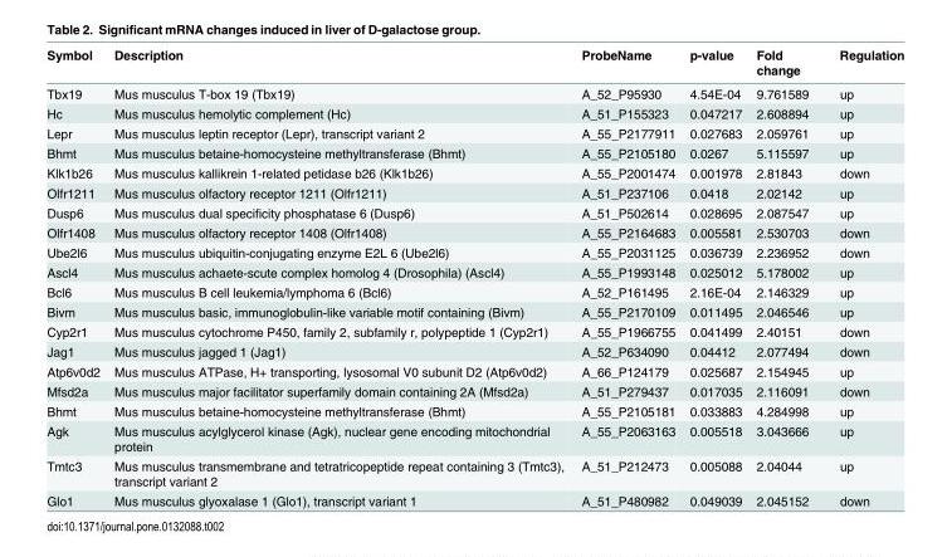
<table><thead><tr><td>Symbol</td><td>Description</td><td>ProbeName</td><td>p-value</td><td>Fold change</td><td>Regulation</td></tr></thead><tbody><tr><td>Tbx19</td><td>Mus musculus T-box 19 (Tbx19)</td><td>A_52_P95930</td><td>4.54E-04</td><td>9.761589</td><td>up</td></tr><tr><td>Hc</td><td>Mus musculus hemolytic complement (Hc)</td><td>A_51_P155323</td><td>0.047217</td><td>2.608894</td><td>up</td></tr><tr><td>Lepr</td><td>Mus musculus leptin receptor (Lepr), transcript variant 2</td><td>A_55_P2177911</td><td>0.027683</td><td>2.059761</td><td>up</td></tr><tr><td>Bhmt</td><td>Mus musculus betaine-homocysteine methyltransferase (Bhmt)</td><td>A_55_P2105180</td><td>0.0267</td><td>5.115597</td><td>up</td></tr><tr><td>Klk1b26</td><td>Mus musculus kallikrein 1-related petidase b26 (Klk1b26)</td><td>A_55_P2001474</td><td>0.001978</td><td>2.81843</td><td>down</td></tr><tr><td>Olfr1211</td><td>Mus musculus olfactory receptor 1211 (Olfr1211)</td><td>A_51_P237106</td><td>0.0418</td><td>2.02142</td><td>up</td></tr><tr><td>Dusp6</td><td>Mus musculus dual specificity phosphatase 6 (Dusp6)</td><td>A_51_P502614</td><td>0.028695</td><td>2.087547</td><td>up</td></tr><tr><td>Olfr1408</td><td>Mus musculus olfactory receptor 1408 (Olfr1408)</td><td>A_55_P2164683</td><td>0.005581</td><td>2.530703</td><td>down</td></tr><tr><td>Ube2l6</td><td>Mus musculus ubiquitin-conjugating enzyme E2L 6 (Ube2l6)</td><td>A_55_P2031125</td><td>0.036739</td><td>2.236952</td><td>down</td></tr><tr><td>Ascl4</td><td>Mus musculus achaete-scute complex homolog 4 (Drosophila) (Ascl4)</td><td>A_55_P1993148</td><td>0.025012</td><td>5.178002</td><td>up</td></tr><tr><td>Bcl6</td><td>Mus musculus B cell leukemia/lymphoma 6 (Bcl6)</td><td>A_52_P161495</td><td>2.16E-04</td><td>2.146329</td><td>up</td></tr><tr><td>Bivm</td><td>Mus musculus basic, immunoglobulin-like variable motif containing (Bivm)</td><td>A_55_P2170109</td><td>0.011495</td><td>2.046546</td><td>up</td></tr><tr><td>Cyp2r1</td><td>Mus musculus cytochrome P450, family 2, subfamily r, polypeptide 1 (Cyp2r1)</td><td>A_55_P1966755</td><td>0.041499</td><td>2.40151</td><td>down</td></tr><tr><td>Jag1</td><td>Mus musculus jagged 1 (Jag1)</td><td>A_52_P634090</td><td>0.04412</td><td>2.077494</td><td>down</td></tr><tr><td>Atp6v0d2</td><td>Mus musculus ATPase, H+ transporting, lysosomal V0 subunit D2 (Atp6v0d2)</td><td>A_66_P124179</td><td>0.025687</td><td>2.154945</td><td>up</td></tr><tr><td>Mfsd2a</td><td>Mus musculus major facilitator superfamily domain containing 2A (Mfsd2a)</td><td>A_51_P279437</td><td>0.017035</td><td>2.116091</td><td>down</td></tr><tr><td>Bhmt</td><td>Mus musculus betaine-homocysteine methyltransferase (Bhmt)</td><td>A_55_P2105181</td><td>0.033883</td><td>4.284998</td><td>up</td></tr><tr><td>Agk</td><td>Mus musculus acylglycerol kinase (Agk), nuclear gene encoding mitochondrial protein</td><td>A_55_P2063163</td><td>0.005518</td><td>3.043666</td><td>up</td></tr><tr><td>Tmtc3</td><td>Mus musculus transmembrane and tetratricopeptide repeat containing 3 (Tmtc3), transcript variant 2</td><td>A_51_P212473</td><td>0.005088</td><td>2.04044</td><td>up</td></tr><tr><td>Glo1</td><td>Mus musculus glyoxalase 1 (Glo1), transcript variant 1</td><td>A_51_P480982</td><td>0.049039</td><td>2.045152</td><td>down</td></tr></tbody></table>